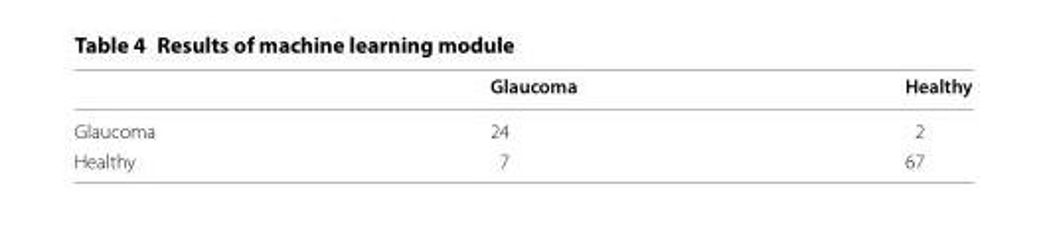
<table><thead><tr><td></td><td>Glaucoma</td><td>Healthy</td></tr></thead><tbody><tr><td>Glaucoma</td><td>24</td><td>2</td></tr><tr><td>Healthy</td><td>7</td><td>67</td></tr></tbody></table>